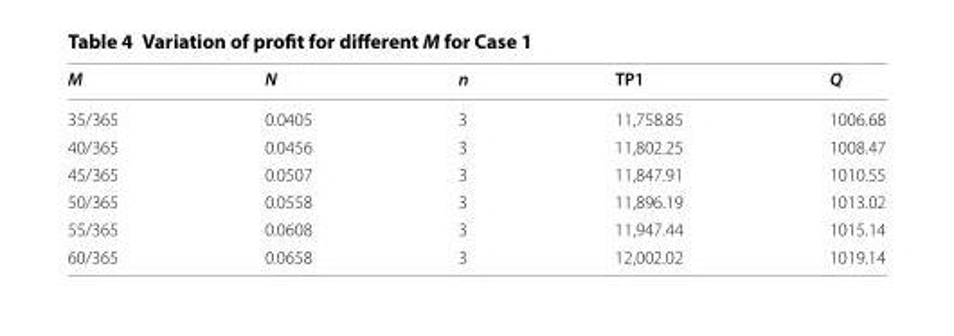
<table><thead><tr><td>M</td><td>N</td><td>n</td><td>TP1</td><td>Q</td></tr></thead><tbody><tr><td>35/365</td><td>0.0405</td><td>3</td><td>11,758.85</td><td>1006.68</td></tr><tr><td>40/365</td><td>0.0456</td><td>3</td><td>11,802.25</td><td>1008.47</td></tr><tr><td>45/365</td><td>0.0507</td><td>3</td><td>11,847.91</td><td>1010.55</td></tr><tr><td>50/365</td><td>0.0558</td><td>3</td><td>11,896.19</td><td>1013.02</td></tr><tr><td>55/365</td><td>0.0608</td><td>3</td><td>11,947.44</td><td>1015.14</td></tr><tr><td>60/365</td><td>0.0658</td><td>3</td><td>12,002.02</td><td>1019.14</td></tr></tbody></table>